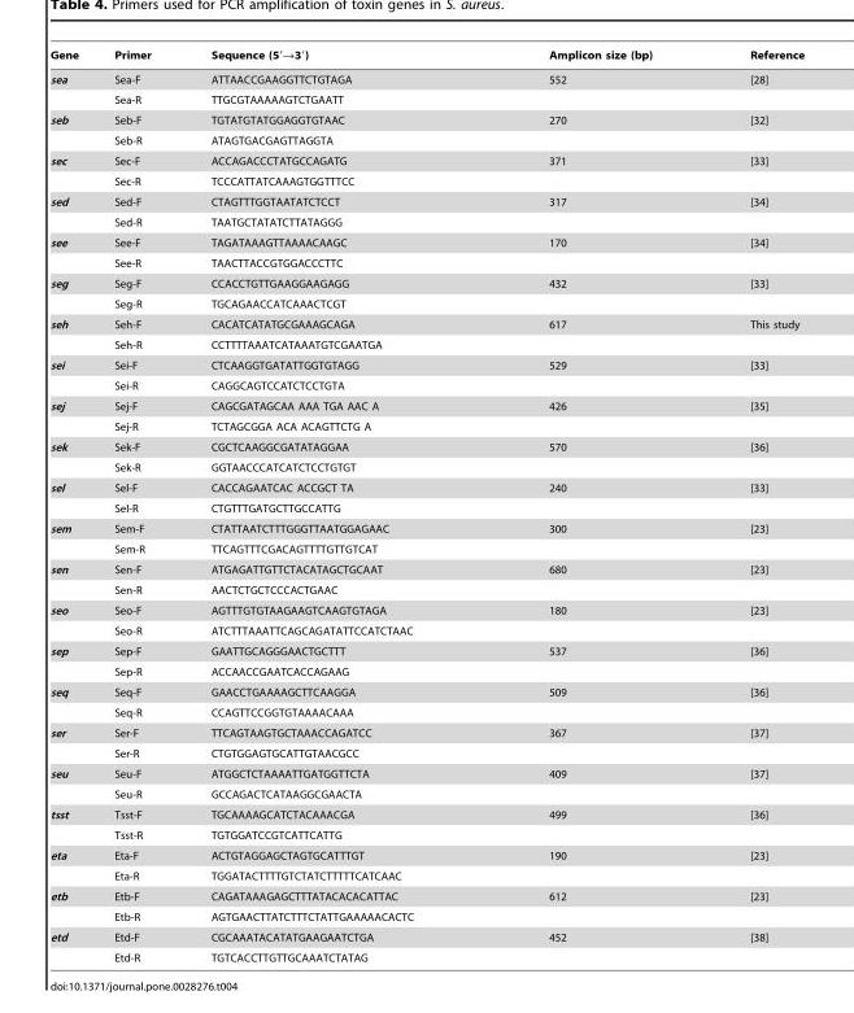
<table><thead><tr><td>Gene</td><td>Primer</td><td>Sequence (5′→3′)</td><td>Amplicon size (bp)</td><td>Reference</td></tr></thead><tbody><tr><td rowspan="2">sea</td><td>Sea-F</td><td>ATTAACCGAAGGTTCTGTAGA</td><td>552</td><td>[28]</td></tr><tr><td>Sea-R</td><td>TTGCGTAAAAAGTCTGAATT</td><td></td><td></td></tr><tr><td rowspan="2">seb</td><td>Seb-F</td><td>TGTATGTATGGAGGTGTAAC</td><td>270</td><td>[32]</td></tr><tr><td>Seb-R</td><td>ATAGTGACGAGTTAGGTA</td><td></td><td></td></tr><tr><td rowspan="2">sec</td><td>Sec-F</td><td>ACCAGACCCTATGCCAGATG</td><td>371</td><td>[33]</td></tr><tr><td>Sec-R</td><td>TCCCATTATCAAAGTGGTTTCC</td><td></td><td></td></tr><tr><td rowspan="2">sed</td><td>Sed-F</td><td>CTAGTTTGGTAATATCTCCT</td><td>317</td><td>[34]</td></tr><tr><td>Sed-R</td><td>TAATGCTATATCTTATAGGG</td><td></td><td></td></tr><tr><td rowspan="2">see</td><td>See-F</td><td>TAGATAAAGTTAAAACAAGC</td><td>170</td><td>[34]</td></tr><tr><td>See-R</td><td>TAACTTACCGTGGACCCTTC</td><td></td><td></td></tr><tr><td rowspan="2">seg</td><td>Seg-F</td><td>CCACCTGTTGAAGGAAGAGG</td><td>432</td><td>[33]</td></tr><tr><td>Seg-R</td><td>TGCAGAACCATCAAACTCGT</td><td></td><td></td></tr><tr><td rowspan="2">seh</td><td>Seh-F</td><td>CACATCATATGCGAAAGCAGA</td><td>617</td><td>This study</td></tr><tr><td>Seh-R</td><td>CCTTTTAAATCATAAATGTCGAATGA</td><td></td><td></td></tr><tr><td rowspan="2">sei</td><td>Sei-F</td><td>CTCAAGGTGATATTGGTGTAGG</td><td>529</td><td>[33]</td></tr><tr><td>Sei-R</td><td>CAGGCAGTCCATCTCCTGTA</td><td></td><td></td></tr><tr><td rowspan="2">sej</td><td>Sej-F</td><td>CAGCGATAGCAA AAA TGA AAC A</td><td>426</td><td>[35]</td></tr><tr><td>Sej-R</td><td>TCTAGCGGA ACA ACAGTTCTG A</td><td></td><td></td></tr><tr><td rowspan="2">sek</td><td>Sek-F</td><td>CGCTCAAGGCGATATAGGAA</td><td>570</td><td>[36]</td></tr><tr><td>Sek-R</td><td>GGTAACCCATCATCTCCTGTGT</td><td></td><td></td></tr><tr><td rowspan="2">sel</td><td>Sel-F</td><td>CACCAGAATCAC ACCGCT TA</td><td>240</td><td>[33]</td></tr><tr><td>Sel-R</td><td>CTGTTTGATGCTTGCCATTG</td><td></td><td></td></tr><tr><td rowspan="2">sem</td><td>Sem-F</td><td>CTATTAATCTTTGGGTTAATGGAGAAC</td><td>300</td><td>[23]</td></tr><tr><td>Sem-R</td><td>TTCAGTTTCGACAGTTTTGTTGTCAT</td><td></td><td></td></tr><tr><td rowspan="2">sen</td><td>Sen-F</td><td>ATGAGATTGTTCTACATAGCTGCAAT</td><td>680</td><td>[23]</td></tr><tr><td>Sen-R</td><td>AACTCTGCTCCCACTGAAC</td><td></td><td></td></tr><tr><td rowspan="2">seo</td><td>Seo-F</td><td>AGTTTGTGTAAGAAGTCAAGTGTAGA</td><td>180</td><td>[23]</td></tr><tr><td>Seo-R</td><td>ATCTTTAAATTCAGCAGATATTCCATCTAAC</td><td></td><td></td></tr><tr><td rowspan="2">sep</td><td>Sep-F</td><td>GAATTGCAGGGAACTGCTTT</td><td>537</td><td>[36]</td></tr><tr><td>Sep-R</td><td>ACCAACCGAATCACCAGAAG</td><td></td><td></td></tr><tr><td rowspan="2">seq</td><td>Seq-F</td><td>GAACCTGAAAAGCTTCAAGGA</td><td>509</td><td>[36]</td></tr><tr><td>Seq-R</td><td>CCAGTTCCGGTGTAAAACAAA</td><td></td><td></td></tr><tr><td rowspan="2">ser</td><td>Ser-F</td><td>TTCAGTAAGTGCTAAACCAGATCC</td><td>367</td><td>[37]</td></tr><tr><td>Ser-R</td><td>CTGTGGAGTGCATTGTAACGCC</td><td></td><td></td></tr><tr><td rowspan="2">seu</td><td>Seu-F</td><td>ATGGCTCTAAAATTGATGGTTCTA</td><td>409</td><td>[37]</td></tr><tr><td>Seu-R</td><td>GCCAGACTCATAAGGCGAACTA</td><td></td><td></td></tr><tr><td rowspan="2">tsst</td><td>Tsst-F</td><td>TGCAAAAGCATCTACAAACGA</td><td>499</td><td>[36]</td></tr><tr><td>Tsst-R</td><td>TGTGGATCCGTCATTCATTG</td><td></td><td></td></tr><tr><td rowspan="2">eta</td><td>Eta-F</td><td>ACTGTAGGAGCTAGTGCATTTGT</td><td>190</td><td>[23]</td></tr><tr><td>Eta-R</td><td>TGGATACTTTTGTCTATCTTTTTCATCAAC</td><td></td><td></td></tr><tr><td rowspan="2">etb</td><td>Etb-F</td><td>CAGATAAAGAGCTTTATACACACATTAC</td><td>612</td><td>[23]</td></tr><tr><td>Etb-R</td><td>AGTGAACTTATCTTTCTATTGAAAAACACTC</td><td></td><td></td></tr><tr><td rowspan="2">etd</td><td>Etd-F</td><td>CGCAAATACATATGAAGAATCTGA</td><td>452</td><td>[38]</td></tr><tr><td>Etd-R</td><td>TGTCACCTTGTTGCAAATCTATAG</td><td></td><td></td></tr></tbody></table>